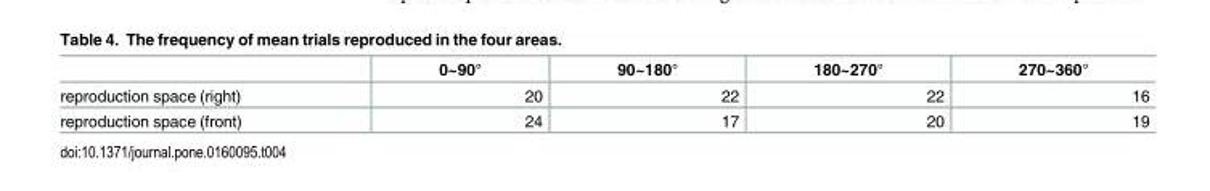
<table><thead><tr><td></td><td>0~90°</td><td>90~180°</td><td>180~270°</td><td>270~360°</td></tr></thead><tbody><tr><td>reproduction space (right)</td><td>20</td><td>22</td><td>22</td><td>16</td></tr><tr><td>reproduction space (front)</td><td>24</td><td>17</td><td>20</td><td>19</td></tr></tbody></table>